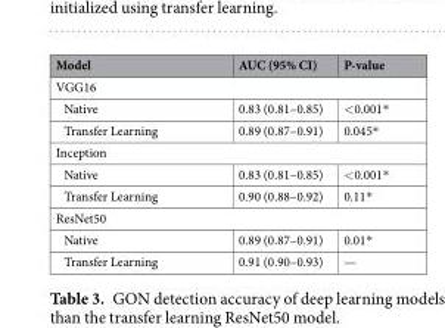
<table><thead><tr><td>Model</td><td>AUC (95% CI)</td><td>P-value</td></tr></thead><tbody><tr><td colspan="3">VGG16</td></tr><tr><td>Native</td><td>0.83 (0.81–0.85)</td><td>&lt;0.001*</td></tr><tr><td>Transfer Learning</td><td>0.89 (0.87–0.91)</td><td>0.045*</td></tr><tr><td colspan="3">Inception</td></tr><tr><td>Native</td><td>0.83 (0.81–0.85)</td><td>&lt;0.001*</td></tr><tr><td>Transfer Learning</td><td>0.90 (0.88–0.92)</td><td>0.11*</td></tr><tr><td colspan="3">ResNet50</td></tr><tr><td>Native</td><td>0.89 (0.87–0.91)</td><td>0.01*</td></tr><tr><td>Transfer Learning</td><td>0.91 (0.90–0.93)</td><td>—</td></tr></tbody></table>